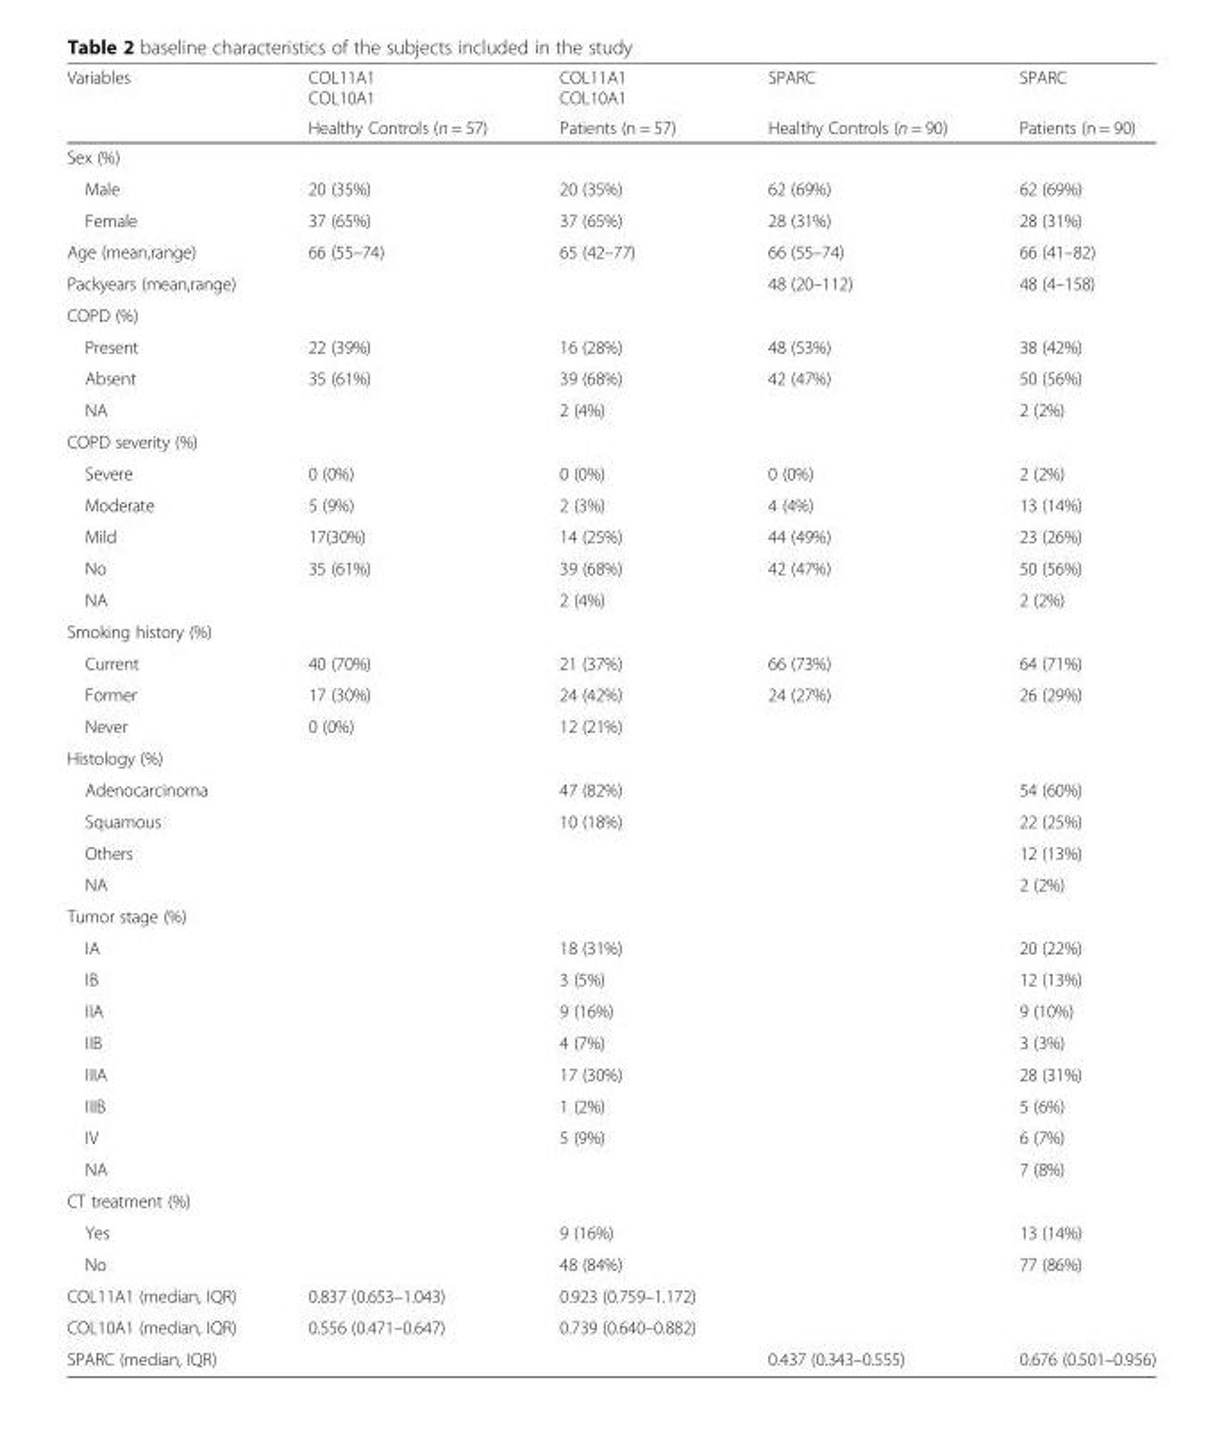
<table><thead><tr><td rowspan="2">Variables</td><td rowspan="2">COL11A1 COL10A1 Healthy Controls (n = 57)</td><td rowspan="2">COL11A1 COL10A1 Patients (n = 57)</td><td rowspan="2">SPARC Healthy Controls (n = 90)</td><td rowspan="2">SPARC Patients (n = 90)</td></tr><tr></tr></thead><tbody><tr><td colspan="5">Sex (%)</td></tr><tr><td>Male</td><td>20 (35%)</td><td>20 (35%)</td><td>62 (69%)</td><td>62 (69%)</td></tr><tr><td>Female</td><td>37 (65%)</td><td>37 (65%)</td><td>28 (31%)</td><td>28 (31%)</td></tr><tr><td>Age (mean,range)</td><td>66 (55–74)</td><td>65 (42–77)</td><td>66 (55–74)</td><td>66 (41–82)</td></tr><tr><td>Packyears (mean,range)</td><td></td><td></td><td>48 (20–112)</td><td>48 (4–158)</td></tr><tr><td colspan="5">COPD (%)</td></tr><tr><td>Present</td><td>22 (39%)</td><td>16 (28%)</td><td>48 (53%)</td><td>38 (42%)</td></tr><tr><td>Absent</td><td>35 (61%)</td><td>39 (68%)</td><td>42 (47%)</td><td>50 (56%)</td></tr><tr><td>NA</td><td></td><td>2 (4%)</td><td></td><td>2 (2%)</td></tr><tr><td colspan="5">COPD severity (%)</td></tr><tr><td>Severe</td><td>0 (0%)</td><td>0 (0%)</td><td>0 (0%)</td><td>2 (2%)</td></tr><tr><td>Moderate</td><td>5 (9%)</td><td>2 (3%)</td><td>4 (4%)</td><td>13 (14%)</td></tr><tr><td>Mild</td><td>17(30%)</td><td>14 (25%)</td><td>44 (49%)</td><td>23 (26%)</td></tr><tr><td>No</td><td>35 (61%)</td><td>39 (68%)</td><td>42 (47%)</td><td>50 (56%)</td></tr><tr><td>NA</td><td></td><td>2 (4%)</td><td></td><td>2 (2%)</td></tr><tr><td colspan="5">Smoking history (%)</td></tr><tr><td>Current</td><td>40 (70%)</td><td>21 (37%)</td><td>66 (73%)</td><td>64 (71%)</td></tr><tr><td>Former</td><td>17 (30%)</td><td>24 (42%)</td><td>24 (27%)</td><td>26 (29%)</td></tr><tr><td>Never</td><td>0 (0%)</td><td>12 (21%)</td><td></td><td></td></tr><tr><td colspan="5">Histology (%)</td></tr><tr><td>Adenocarcinoma</td><td></td><td>47 (82%)</td><td></td><td>54 (60%)</td></tr><tr><td>Squamous</td><td></td><td>10 (18%)</td><td></td><td>22 (25%)</td></tr><tr><td>Others</td><td></td><td></td><td></td><td>12 (13%)</td></tr><tr><td>NA</td><td></td><td></td><td></td><td>2 (2%)</td></tr><tr><td colspan="5">Tumor stage (%)</td></tr><tr><td>IA</td><td></td><td>18 (31%)</td><td></td><td>20 (22%)</td></tr><tr><td>IB</td><td></td><td>3 (5%)</td><td></td><td>12 (13%)</td></tr><tr><td>IIA</td><td></td><td>9 (16%)</td><td></td><td>9 (10%)</td></tr><tr><td>IIB</td><td></td><td>4 (7%)</td><td></td><td>3 (3%)</td></tr><tr><td>IIIA</td><td></td><td>17 (30%)</td><td></td><td>28 (31%)</td></tr><tr><td>IIIB</td><td></td><td>1 (2%)</td><td></td><td>5 (6%)</td></tr><tr><td>IV</td><td></td><td>5 (9%)</td><td></td><td>6 (7%)</td></tr><tr><td>NA</td><td></td><td></td><td></td><td>7 (8%)</td></tr><tr><td colspan="5">CT treatment (%)</td></tr><tr><td>Yes</td><td></td><td>9 (16%)</td><td></td><td>13 (14%)</td></tr><tr><td>No</td><td></td><td>48 (84%)</td><td></td><td>77 (86%)</td></tr><tr><td>COL11A1 (median, IQR)</td><td>0.837 (0.653–1.043)</td><td>0.923 (0.759–1.172)</td><td></td><td></td></tr><tr><td>COL10A1 (median, IQR)</td><td>0.556 (0.471–0.647)</td><td>0.739 (0.640–0.882)</td><td></td><td></td></tr><tr><td>SPARC (median, IQR)</td><td></td><td></td><td>0.437 (0.343–0.555)</td><td>0.676 (0.501–0.956)</td></tr></tbody></table>